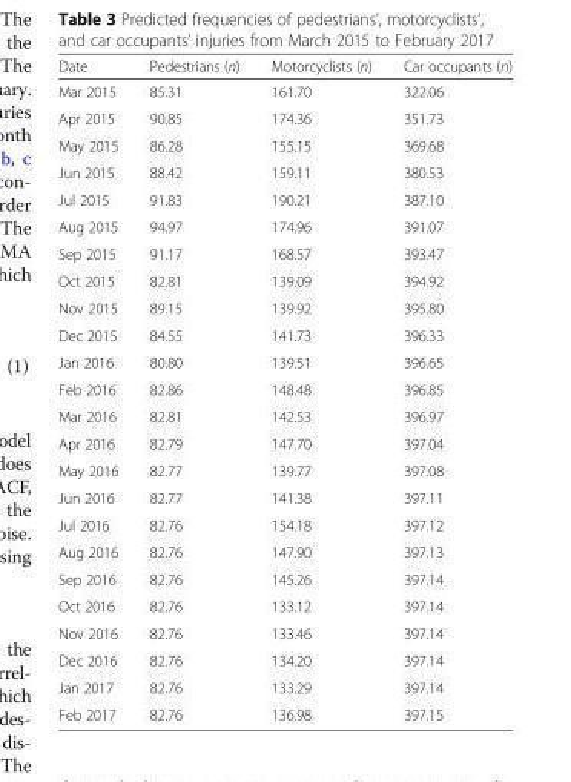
<table><thead><tr><td>Date</td><td>Pedestrians (n)</td><td>Motorcyclists (n)</td><td>Car occupants (n)</td></tr></thead><tbody><tr><td>Mar 2015</td><td>85.31</td><td>161.70</td><td>322.06</td></tr><tr><td>Apr 2015</td><td>90.85</td><td>174.36</td><td>351.73</td></tr><tr><td>May 2015</td><td>86.28</td><td>155.15</td><td>369.68</td></tr><tr><td>Jun 2015</td><td>88.42</td><td>159.11</td><td>380.53</td></tr><tr><td>Jul 2015</td><td>91.83</td><td>190.21</td><td>387.10</td></tr><tr><td>Aug 2015</td><td>94.97</td><td>174.96</td><td>391.07</td></tr><tr><td>Sep 2015</td><td>91.17</td><td>168.57</td><td>393.47</td></tr><tr><td>Oct 2015</td><td>82.81</td><td>139.09</td><td>394.92</td></tr><tr><td>Nov 2015</td><td>89.15</td><td>139.92</td><td>395.80</td></tr><tr><td>Dec 2015</td><td>84.55</td><td>141.73</td><td>396.33</td></tr><tr><td>Jan 2016</td><td>80.80</td><td>139.51</td><td>396.65</td></tr><tr><td>Feb 2016</td><td>82.86</td><td>148.48</td><td>396.85</td></tr><tr><td>Mar 2016</td><td>82.81</td><td>142.53</td><td>396.97</td></tr><tr><td>Apr 2016</td><td>82.79</td><td>147.70</td><td>397.04</td></tr><tr><td>May 2016</td><td>82.77</td><td>139.77</td><td>397.08</td></tr><tr><td>Jun 2016</td><td>82.77</td><td>141.38</td><td>397.11</td></tr><tr><td>Jul 2016</td><td>82.76</td><td>154.18</td><td>397.12</td></tr><tr><td>Aug 2016</td><td>82.76</td><td>147.90</td><td>397.13</td></tr><tr><td>Sep 2016</td><td>82.76</td><td>145.26</td><td>397.14</td></tr><tr><td>Oct 2016</td><td>82.76</td><td>133.12</td><td>397.14</td></tr><tr><td>Nov 2016</td><td>82.76</td><td>133.46</td><td>397.14</td></tr><tr><td>Dec 2016</td><td>82.76</td><td>134.20</td><td>397.14</td></tr><tr><td>Jan 2017</td><td>82.76</td><td>133.29</td><td>397.14</td></tr><tr><td>Feb 2017</td><td>82.76</td><td>136.98</td><td>397.15</td></tr></tbody></table>